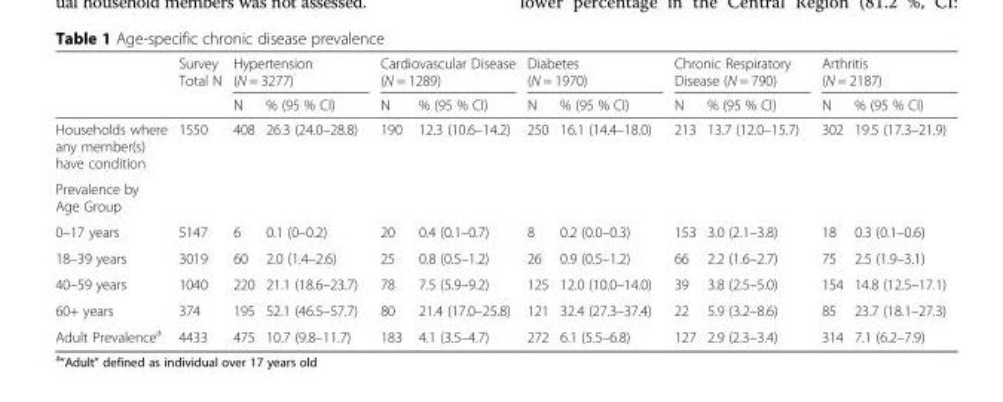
<table><thead><tr><td rowspan="2"></td><td rowspan="2">Survey Total N</td><td colspan="2">Hypertension (N = 3277)</td><td colspan="2">Cardiovascular Disease (N = 1289)</td><td colspan="2">Diabetes (N = 1970)</td><td colspan="2">Chronic Respiratory Disease (N = 790)</td><td colspan="2">Arthritis (N = 2187)</td></tr><tr><td>N</td><td>% (95 % CI)</td><td>N</td><td>% (95 % CI)</td><td>N</td><td>% (95 % CI)</td><td>N</td><td>% (95 % CI)</td><td>N</td><td>% (95 % CI)</td></tr></thead><tbody><tr><td>Households where any member(s) have condition</td><td>1550</td><td>408</td><td>26.3 (24.0–28.8)</td><td>190</td><td>12.3 (10.6–14.2)</td><td>250</td><td>16.1 (14.4–18.0)</td><td>213</td><td>13.7 (12.0–15.7)</td><td>302</td><td>19.5 (17.3–21.9)</td></tr><tr><td colspan="12">Prevalence by Age Group</td></tr><tr><td>0–17 years</td><td>5147</td><td>6</td><td>0.1 (0–0.2)</td><td>20</td><td>0.4 (0.1–0.7)</td><td>8</td><td>0.2 (0.0–0.3)</td><td>153</td><td>3.0 (2.1–3.8)</td><td>18</td><td>0.3 (0.1–0.6)</td></tr><tr><td>18–39 years</td><td>3019</td><td>60</td><td>2.0 (1.4–2.6)</td><td>25</td><td>0.8 (0.5–1.2)</td><td>26</td><td>0.9 (0.5–1.2)</td><td>66</td><td>2.2 (1.6–2.7)</td><td>75</td><td>2.5 (1.9–3.1)</td></tr><tr><td>40–59 years</td><td>1040</td><td>220</td><td>21.1 (18.6–23.7)</td><td>78</td><td>7.5 (5.9–9.2)</td><td>125</td><td>12.0 (10.0–14.0)</td><td>39</td><td>3.8 (2.5–5.0)</td><td>154</td><td>14.8 (12.5–17.1)</td></tr><tr><td>60+ years</td><td>374</td><td>195</td><td>52.1 (46.5–57.7)</td><td>80</td><td>21.4 (17.0–25.8)</td><td>121</td><td>32.4 (27.3–37.4)</td><td>22</td><td>5.9 (3.2–8.6)</td><td>85</td><td>23.7 (18.1–27.3)</td></tr><tr><td>Adult Prevalence<sup>a</sup></td><td>4433</td><td>475</td><td>10.7 (9.8–11.7)</td><td>183</td><td>4.1 (3.5–4.7)</td><td>272</td><td>6.1 (5.5–6.8)</td><td>127</td><td>2.9 (2.3–3.4)</td><td>314</td><td>7.1 (6.2–7.9)</td></tr></tbody></table>